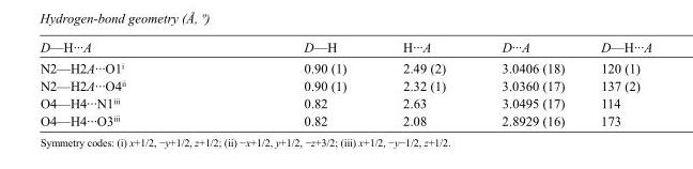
<table><tbody><tr><td>D—H···A</td><td>D—H</td><td>H···A</td><td>D···A</td><td>D—H···A</td></tr><tr><td>N2—H2A···O1<sup>i</sup></td><td>0.90 (1)</td><td>2.49 (2)</td><td>3.0406 (18)</td><td>120 (1)</td></tr><tr><td>N2—H2A···O4<sup>ii</sup></td><td>0.90 (1)</td><td>2.32 (1)</td><td>3.0360 (17)</td><td>137 (2)</td></tr><tr><td>O4—H4···N1<sup>iii</sup></td><td>0.82</td><td>2.63</td><td>3.0495 (17)</td><td>114</td></tr><tr><td>O4—H4···O3<sup>iii</sup></td><td>0.82</td><td>2.08</td><td>2.8929 (16)</td><td>173</td></tr></tbody></table>